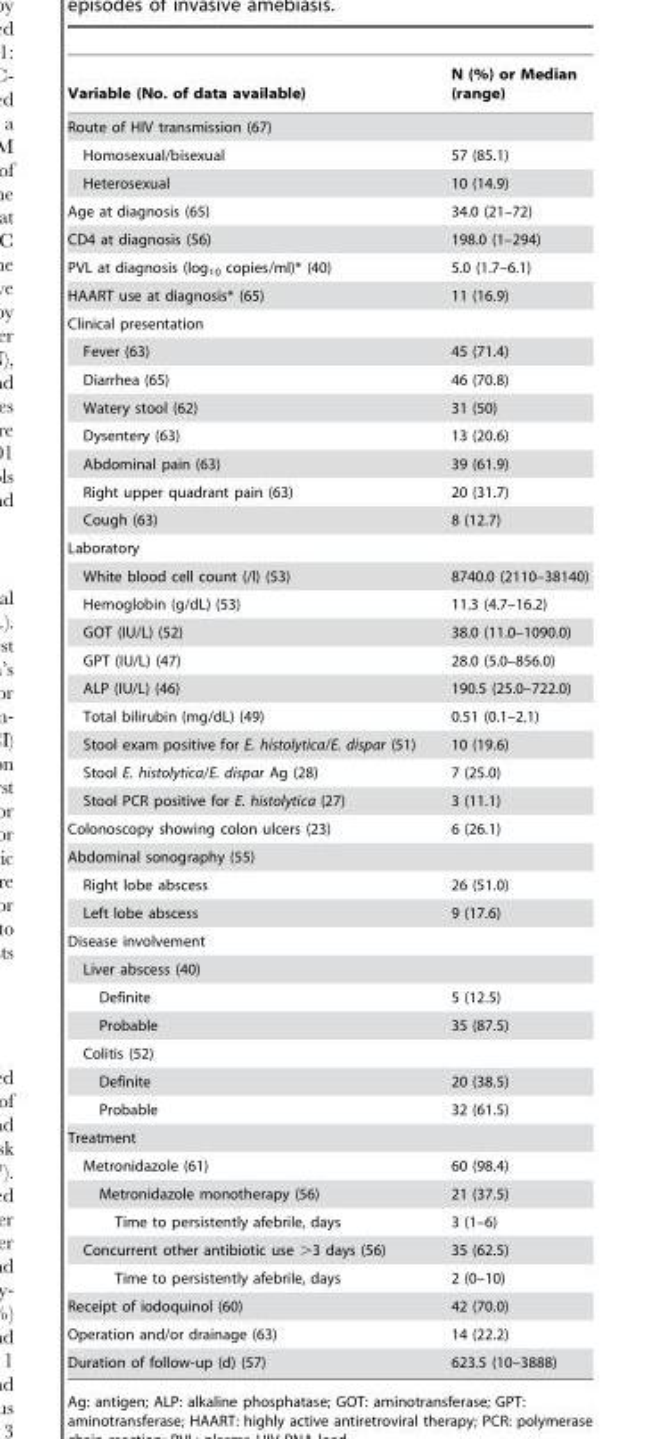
<table><thead><tr><td>Variable (No. of data available)</td><td>N (%) or Median (range)</td></tr></thead><tbody><tr><td colspan="2">Route of HIV transmission (67)</td></tr><tr><td>Homosexual/bisexual</td><td>57 (85.1)</td></tr><tr><td>Heterosexual</td><td>10 (14.9)</td></tr><tr><td>Age at diagnosis (65)</td><td>34.0 (21–72)</td></tr><tr><td>CD4 at diagnosis (56)</td><td>198.0 (1–294)</td></tr><tr><td>PVL at diagnosis (log<sub>10</sub> copies/ml)* (40)</td><td>5.0 (1.7–6.1)</td></tr><tr><td>HAART use at diagnosis* (65)</td><td>11 (16.9)</td></tr><tr><td colspan="2">Clinical presentation</td></tr><tr><td>Fever (63)</td><td>45 (71.4)</td></tr><tr><td>Diarrhea (65)</td><td>46 (70.8)</td></tr><tr><td>Watery stool (62)</td><td>31 (50)</td></tr><tr><td>Dysentery (63)</td><td>13 (20.6)</td></tr><tr><td>Abdominal pain (63)</td><td>39 (61.9)</td></tr><tr><td>Right upper quadrant pain (63)</td><td>20 (31.7)</td></tr><tr><td>Cough (63)</td><td>8 (12.7)</td></tr><tr><td colspan="2">Laboratory</td></tr><tr><td>White blood cell count (/l) (53)</td><td>8740.0 (2110–38140)</td></tr><tr><td>Hemoglobin (g/dL) (53)</td><td>11.3 (4.7–16.2)</td></tr><tr><td>GOT (IU/L) (52)</td><td>38.0 (11.0–1090.0)</td></tr><tr><td>GPT (IU/L) (47)</td><td>28.0 (5.0–856.0)</td></tr><tr><td>ALP (IU/L) (46)</td><td>190.5 (25.0–722.0)</td></tr><tr><td>Total bilirubin (mg/dL) (49)</td><td>0.51 (0.1–2.1)</td></tr><tr><td>Stool exam positive for E. histolytica/E. dispar (51)</td><td>10 (19.6)</td></tr><tr><td>Stool E. histolytica/E. dispar Ag (28)</td><td>7 (25.0)</td></tr><tr><td>Stool PCR positive for E. histolytica (27)</td><td>3 (11.1)</td></tr><tr><td>Colonoscopy showing colon ulcers (23)</td><td>6 (26.1)</td></tr><tr><td colspan="2">Abdominal sonography (55)</td></tr><tr><td>Right lobe abscess</td><td>26 (51.0)</td></tr><tr><td>Left lobe abscess</td><td>9 (17.6)</td></tr><tr><td colspan="2">Disease involvement</td></tr><tr><td colspan="2">Liver abscess (40)</td></tr><tr><td>Definite</td><td>5 (12.5)</td></tr><tr><td>Probable</td><td>35 (87.5)</td></tr><tr><td colspan="2">Colitis (52)</td></tr><tr><td>Definite</td><td>20 (38.5)</td></tr><tr><td>Probable</td><td>32 (61.5)</td></tr><tr><td colspan="2">Treatment</td></tr><tr><td>Metronidazole (61)</td><td>60 (98.4)</td></tr><tr><td>Metronidazole monotherapy (56)</td><td>21 (37.5)</td></tr><tr><td>Time to persistently afebrile, days</td><td>3 (1–6)</td></tr><tr><td>Concurrent other antibiotic use &gt;3 days (56)</td><td>35 (62.5)</td></tr><tr><td>Time to persistently afebrile, days</td><td>2 (0–10)</td></tr><tr><td>Receipt of iodoquinol (60)</td><td>42 (70.0)</td></tr><tr><td>Operation and/or drainage (63)</td><td>14 (22.2)</td></tr><tr><td>Duration of follow-up (d) (57)</td><td>623.5 (10–3888)</td></tr></tbody></table>